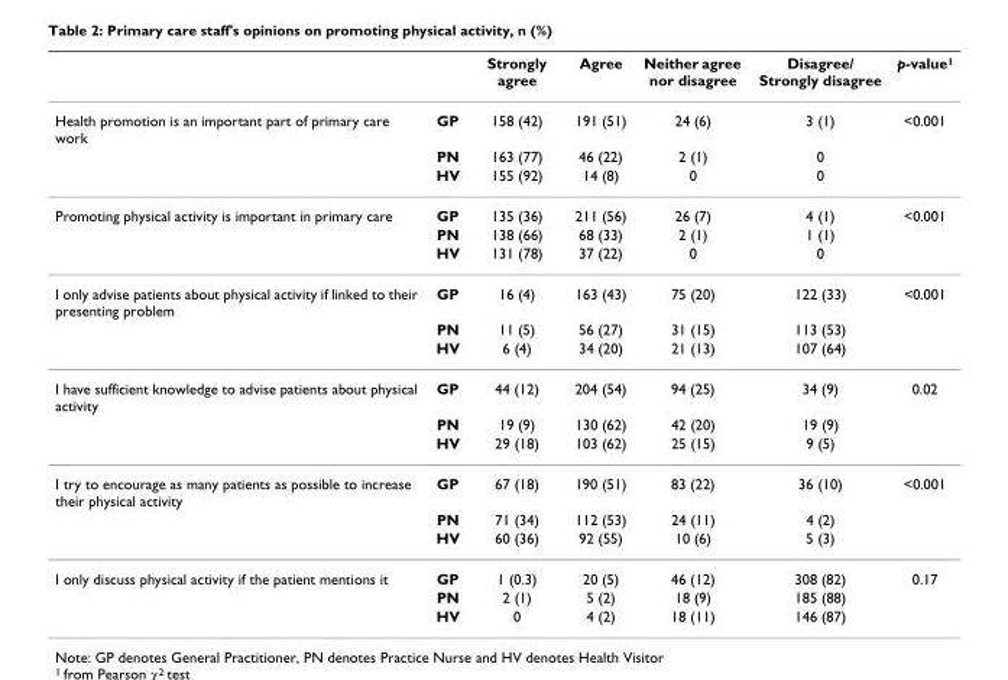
<table><thead><tr><td></td><td></td><td>Strongly agree</td><td>Agree</td><td>Neither agree nor disagree</td><td>Disagree/ Strongly disagree</td><td>p-value1</td></tr></thead><tbody><tr><td rowspan="3">Health promotion is an important part of primary care work</td><td>GP</td><td>158 (42)</td><td>191 (51)</td><td>24 (6)</td><td>3 (1)</td><td>&lt;0.001</td></tr><tr><td>PN</td><td>163 (77)</td><td>46 (22)</td><td>2 (1)</td><td>0</td><td></td></tr><tr><td>HV</td><td>155 (92)</td><td>14 (8)</td><td>0</td><td>0</td><td></td></tr><tr><td rowspan="3">Promoting physical activity is important in primary care</td><td>GP</td><td>135 (36)</td><td>211 (56)</td><td>26 (7)</td><td>4 (1)</td><td>&lt;0.001</td></tr><tr><td>PN</td><td>138 (66)</td><td>68 (33)</td><td>2 (1)</td><td>1 (1)</td><td></td></tr><tr><td>HV</td><td>131 (78)</td><td>37 (22)</td><td>0</td><td>0</td><td></td></tr><tr><td rowspan="3">I only advise patients about physical activity if linked to their presenting problem</td><td>GP</td><td>16 (4)</td><td>163 (43)</td><td>75 (20)</td><td>122 (33)</td><td>&lt;0.001</td></tr><tr><td>PN</td><td>11 (5)</td><td>56 (27)</td><td>31 (15)</td><td>113 (53)</td><td></td></tr><tr><td>HV</td><td>6 (4)</td><td>34 (20)</td><td>21 (13)</td><td>107 (64)</td><td></td></tr><tr><td rowspan="3">I have sufficient knowledge to advise patients about physical activity</td><td>GP</td><td>44 (12)</td><td>204 (54)</td><td>94 (25)</td><td>34 (9)</td><td>0.02</td></tr><tr><td>PN</td><td>19 (9)</td><td>130 (62)</td><td>42 (20)</td><td>19 (9)</td><td></td></tr><tr><td>HV</td><td>29 (18)</td><td>103 (62)</td><td>25 (15)</td><td>9 (5)</td><td></td></tr><tr><td rowspan="3">I try to encourage as many patients as possible to increase their physical activity</td><td>GP</td><td>67 (18)</td><td>190 (51)</td><td>83 (22)</td><td>36 (10)</td><td>&lt;0.001</td></tr><tr><td>PN</td><td>71 (34)</td><td>112 (53)</td><td>24 (11)</td><td>4 (2)</td><td></td></tr><tr><td>HV</td><td>60 (36)</td><td>92 (55)</td><td>10 (6)</td><td>5 (3)</td><td></td></tr><tr><td rowspan="3">I only discuss physical activity if the patient mentions it</td><td>GP</td><td>1 (0.3)</td><td>20 (5)</td><td>46 (12)</td><td>308 (82)</td><td>0.17</td></tr><tr><td>PN</td><td>2 (1)</td><td>5 (2)</td><td>18 (9)</td><td>185 (88)</td><td></td></tr><tr><td>HV</td><td>0</td><td>4 (2)</td><td>18 (11)</td><td>146 (87)</td><td></td></tr></tbody></table>